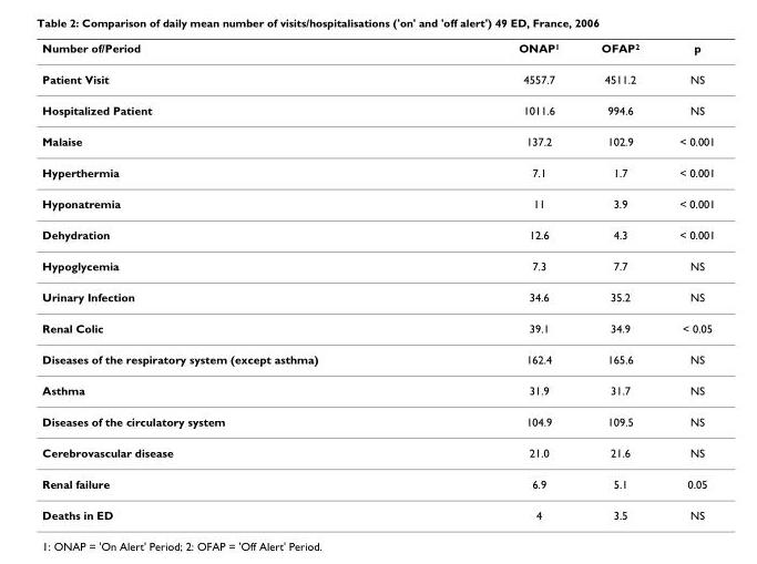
<table><thead><tr><td>Number of/Period</td><td>ONAP<sup>1</sup></td><td>OFAP<sup>2</sup></td><td>p</td></tr></thead><tbody><tr><td>Patient Visit</td><td>4557.7</td><td>4511.2</td><td>NS</td></tr><tr><td>Hospitalized Patient</td><td>1011.6</td><td>994.6</td><td>NS</td></tr><tr><td>Malaise</td><td>137.2</td><td>102.9</td><td>&lt; 0.001</td></tr><tr><td>Hyperthermia</td><td>7.1</td><td>1.7</td><td>&lt; 0.001</td></tr><tr><td>Hyponatremia</td><td>11</td><td>3.9</td><td>&lt; 0.001</td></tr><tr><td>Dehydration</td><td>12.6</td><td>4.3</td><td>&lt; 0.001</td></tr><tr><td>Hypoglycemia</td><td>7.3</td><td>7.7</td><td>NS</td></tr><tr><td>Urinary Infection</td><td>34.6</td><td>35.2</td><td>NS</td></tr><tr><td>Renal Colic</td><td>39.1</td><td>34.9</td><td>&lt; 0.05</td></tr><tr><td>Diseases of the respiratory system (except asthma)</td><td>162.4</td><td>165.6</td><td>NS</td></tr><tr><td>Asthma</td><td>31.9</td><td>31.7</td><td>NS</td></tr><tr><td>Diseases of the circulatory system</td><td>104.9</td><td>109.5</td><td>NS</td></tr><tr><td>Cerebrovascular disease</td><td>21.0</td><td>21.6</td><td>NS</td></tr><tr><td>Renal failure</td><td>6.9</td><td>5.1</td><td>0.05</td></tr><tr><td>Deaths in ED</td><td>4</td><td>3.5</td><td>NS</td></tr></tbody></table>